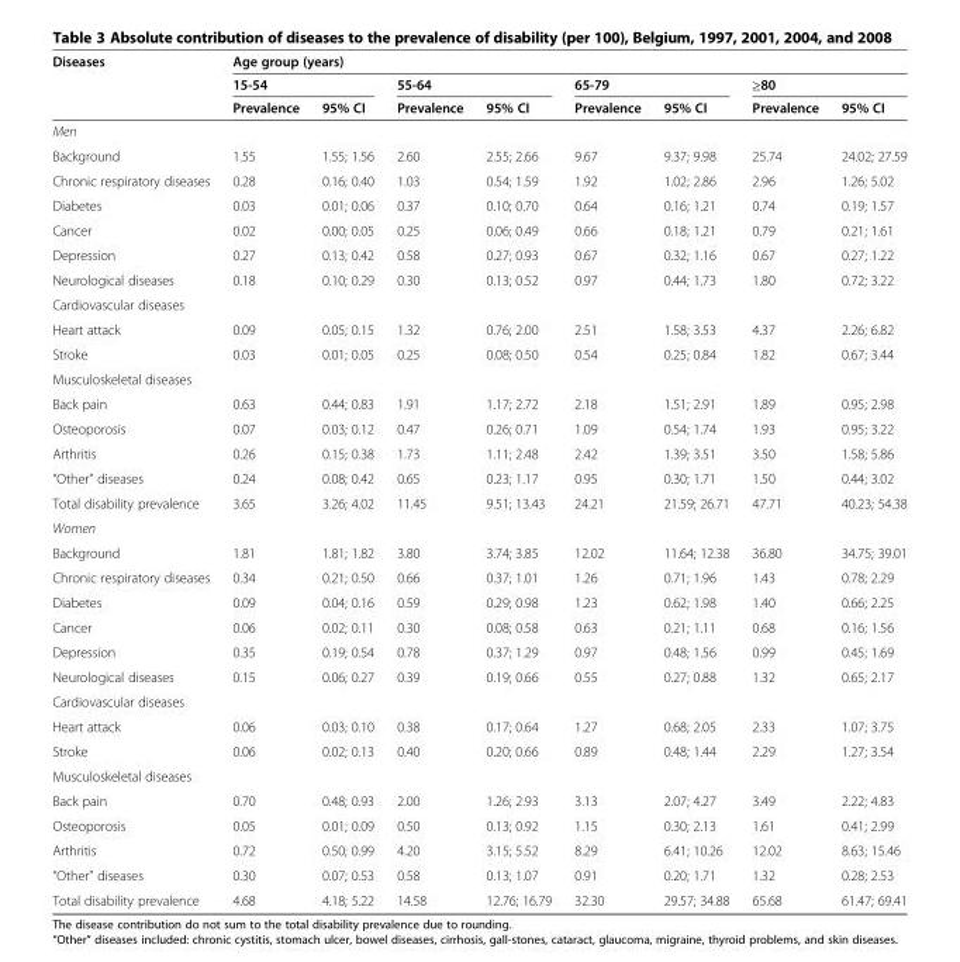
<table><thead><tr><td rowspan="3">Diseases</td><td colspan="8">Age group (years)</td></tr><tr><td colspan="2">15-54</td><td colspan="2">55-64</td><td colspan="2">65-79</td><td colspan="2">≥80</td></tr><tr><td>Prevalence</td><td>95% CI</td><td>Prevalence</td><td>95% CI</td><td>Prevalence</td><td>95% CI</td><td>Prevalence</td><td>95% CI</td></tr></thead><tbody><tr><td colspan="9">Men</td></tr><tr><td>Background</td><td>1.55</td><td>1.55; 1.56</td><td>2.60</td><td>2.55; 2.66</td><td>9.67</td><td>9.37; 9.98</td><td>25.74</td><td>24.02; 27.59</td></tr><tr><td>Chronic respiratory diseases</td><td>0.28</td><td>0.16; 0.40</td><td>1.03</td><td>0.54; 1.59</td><td>1.92</td><td>1.02; 2.86</td><td>2.96</td><td>1.26; 5.02</td></tr><tr><td>Diabetes</td><td>0.03</td><td>0.01; 0.06</td><td>0.37</td><td>0.10; 0.70</td><td>0.64</td><td>0.16; 1.21</td><td>0.74</td><td>0.19; 1.57</td></tr><tr><td>Cancer</td><td>0.02</td><td>0.00; 0.05</td><td>0.25</td><td>0.06; 0.49</td><td>0.66</td><td>0.18; 1.21</td><td>0.79</td><td>0.21; 1.61</td></tr><tr><td>Depression</td><td>0.27</td><td>0.13; 0.42</td><td>0.58</td><td>0.27; 0.93</td><td>0.67</td><td>0.32; 1.16</td><td>0.67</td><td>0.27; 1.22</td></tr><tr><td>Neurological diseases</td><td>0.18</td><td>0.10; 0.29</td><td>0.30</td><td>0.13; 0.52</td><td>0.97</td><td>0.44; 1.73</td><td>1.80</td><td>0.72; 3.22</td></tr><tr><td colspan="9">Cardiovascular diseases</td></tr><tr><td>Heart attack</td><td>0.09</td><td>0.05; 0.15</td><td>1.32</td><td>0.76; 2.00</td><td>2.51</td><td>1.58; 3.53</td><td>4.37</td><td>2.26; 6.82</td></tr><tr><td>Stroke</td><td>0.03</td><td>0.01; 0.05</td><td>0.25</td><td>0.08; 0.50</td><td>0.54</td><td>0.25; 0.84</td><td>1.82</td><td>0.67; 3.44</td></tr><tr><td colspan="9">Musculoskeletal diseases</td></tr><tr><td>Back pain</td><td>0.63</td><td>0.44; 0.83</td><td>1.91</td><td>1.17; 2.72</td><td>2.18</td><td>1.51; 2.91</td><td>1.89</td><td>0.95; 2.98</td></tr><tr><td>Osteoporosis</td><td>0.07</td><td>0.03; 0.12</td><td>0.47</td><td>0.26; 0.71</td><td>1.09</td><td>0.54; 1.74</td><td>1.93</td><td>0.95; 3.22</td></tr><tr><td>Arthritis</td><td>0.26</td><td>0.15; 0.38</td><td>1.73</td><td>1.11; 2.48</td><td>2.42</td><td>1.39; 3.51</td><td>3.50</td><td>1.58; 5.86</td></tr><tr><td>“Other” diseases</td><td>0.24</td><td>0.08; 0.42</td><td>0.65</td><td>0.23; 1.17</td><td>0.95</td><td>0.30; 1.71</td><td>1.50</td><td>0.44; 3.02</td></tr><tr><td>Total disability prevalence</td><td>3.65</td><td>3.26; 4.02</td><td>11.45</td><td>9.51; 13.43</td><td>24.21</td><td>21.59; 26.71</td><td>47.71</td><td>40.23; 54.38</td></tr><tr><td colspan="9">Women</td></tr><tr><td>Background</td><td>1.81</td><td>1.81; 1.82</td><td>3.80</td><td>3.74; 3.85</td><td>12.02</td><td>11.64; 12.38</td><td>36.80</td><td>34.75; 39.01</td></tr><tr><td>Chronic respiratory diseases</td><td>0.34</td><td>0.21; 0.50</td><td>0.66</td><td>0.37; 1.01</td><td>1.26</td><td>0.71; 1.96</td><td>1.43</td><td>0.78; 2.29</td></tr><tr><td>Diabetes</td><td>0.09</td><td>0.04; 0.16</td><td>0.59</td><td>0.29; 0.98</td><td>1.23</td><td>0.62; 1.98</td><td>1.40</td><td>0.66; 2.25</td></tr><tr><td>Cancer</td><td>0.06</td><td>0.02; 0.11</td><td>0.30</td><td>0.08; 0.58</td><td>0.63</td><td>0.21; 1.11</td><td>0.68</td><td>0.16; 1.56</td></tr><tr><td>Depression</td><td>0.35</td><td>0.19; 0.54</td><td>0.78</td><td>0.37; 1.29</td><td>0.97</td><td>0.48; 1.56</td><td>0.99</td><td>0.45; 1.69</td></tr><tr><td>Neurological diseases</td><td>0.15</td><td>0.06; 0.27</td><td>0.39</td><td>0.19; 0.66</td><td>0.55</td><td>0.27; 0.88</td><td>1.32</td><td>0.65; 2.17</td></tr><tr><td colspan="9">Cardiovascular diseases</td></tr><tr><td>Heart attack</td><td>0.06</td><td>0.03; 0.10</td><td>0.38</td><td>0.17; 0.64</td><td>1.27</td><td>0.68; 2.05</td><td>2.33</td><td>1.07; 3.75</td></tr><tr><td>Stroke</td><td>0.06</td><td>0.02; 0.13</td><td>0.40</td><td>0.20; 0.66</td><td>0.89</td><td>0.48; 1.44</td><td>2.29</td><td>1.27; 3.54</td></tr><tr><td colspan="9">Musculoskeletal diseases</td></tr><tr><td>Back pain</td><td>0.70</td><td>0.48; 0.93</td><td>2.00</td><td>1.26; 2.93</td><td>3.13</td><td>2.07; 4.27</td><td>3.49</td><td>2.22; 4.83</td></tr><tr><td>Osteoporosis</td><td>0.05</td><td>0.01; 0.09</td><td>0.50</td><td>0.13; 0.92</td><td>1.15</td><td>0.30; 2.13</td><td>1.61</td><td>0.41; 2.99</td></tr><tr><td>Arthritis</td><td>0.72</td><td>0.50; 0.99</td><td>4.20</td><td>3.15; 5.52</td><td>8.29</td><td>6.41; 10.26</td><td>12.02</td><td>8.63; 15.46</td></tr><tr><td>“Other” diseases</td><td>0.30</td><td>0.07; 0.53</td><td>0.58</td><td>0.13; 1.07</td><td>0.91</td><td>0.20; 1.71</td><td>1.32</td><td>0.28; 2.53</td></tr><tr><td>Total disability prevalence</td><td>4.68</td><td>4.18; 5.22</td><td>14.58</td><td>12.76; 16.79</td><td>32.30</td><td>29.57; 34.88</td><td>65.68</td><td>61.47; 69.41</td></tr></tbody></table>